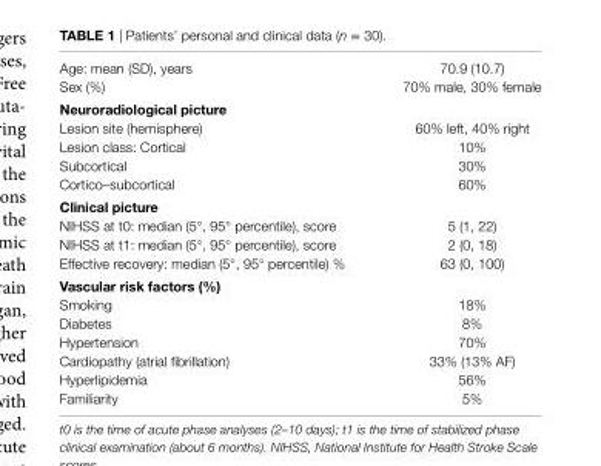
<table><tbody><tr><td>Age: mean (SD), years</td><td>70.9 (10.7)</td></tr><tr><td>Sex (%)</td><td>70% male, 30% female</td></tr><tr><td colspan="2">neuroradiological picture</td></tr><tr><td>Lesion site (hemisphere)</td><td>60% left, 40% right</td></tr><tr><td>Lesion class: Cortical</td><td>10%</td></tr><tr><td>Subcortical</td><td>30%</td></tr><tr><td>Cortico–subcortical</td><td>60%</td></tr><tr><td colspan="2">clinical picture</td></tr><tr><td>NIHSS at t0: median (5°, 95° percentile), score</td><td>5 (1, 22)</td></tr><tr><td>NIHSS at t1: median (5°, 95° percentile), score</td><td>2 (0, 18)</td></tr><tr><td>Effective recovery: median (5°, 95° percentile) %</td><td>63 (0, 100)</td></tr><tr><td colspan="2">Vascular risk factors (%)</td></tr><tr><td>Smoking</td><td>18%</td></tr><tr><td>Diabetes</td><td>8%</td></tr><tr><td>Hypertension</td><td>70%</td></tr><tr><td>Cardiopathy (atrial fibrillation)</td><td>33% (13% AF)</td></tr><tr><td>Hyperlipidemia</td><td>56%</td></tr><tr><td>Familiarity</td><td>5%</td></tr></tbody></table>